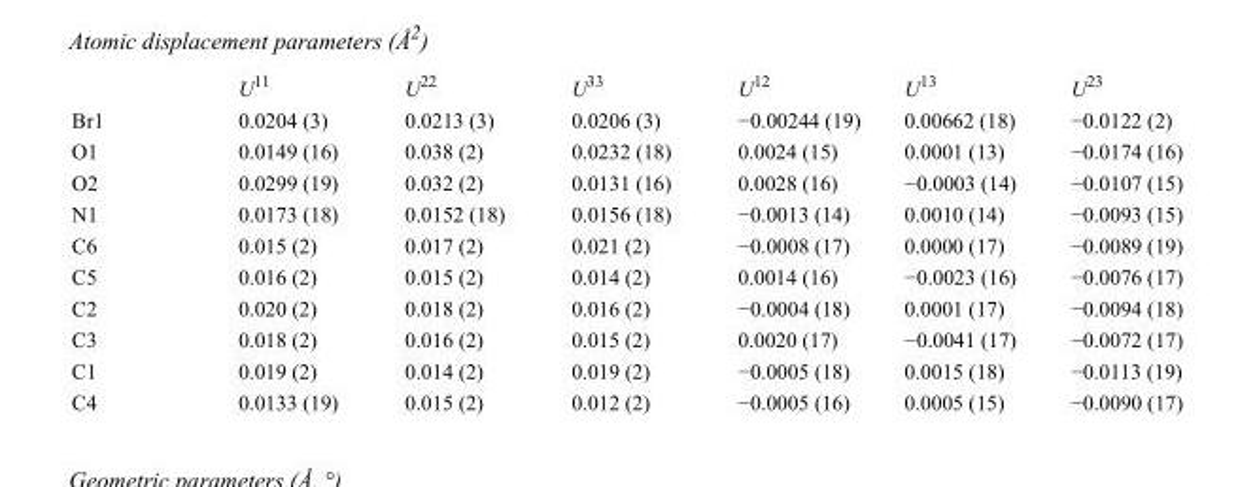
<table><thead><tr><td></td><td>U<sup>11</sup></td><td>U<sup>22</sup></td><td>U<sup>33</sup></td><td>U<sup>12</sup></td><td>U<sup>13</sup></td><td>U<sup>23</sup></td></tr></thead><tbody><tr><td>Br1</td><td>0.0204 (3)</td><td>0.0213 (3)</td><td>0.0206 (3)</td><td>−0.00244 (19)</td><td>0.00662 (18)</td><td>−0.0122 (2)</td></tr><tr><td>O1</td><td>0.0149 (16)</td><td>0.038 (2)</td><td>0.0232 (18)</td><td>0.0024 (15)</td><td>0.0001 (13)</td><td>−0.0174 (16)</td></tr><tr><td>O2</td><td>0.0299 (19)</td><td>0.032 (2)</td><td>0.0131 (16)</td><td>0.0028 (16)</td><td>−0.0003 (14)</td><td>−0.0107 (15)</td></tr><tr><td>N1</td><td>0.0173 (18)</td><td>0.0152 (18)</td><td>0.0156 (18)</td><td>−0.0013 (14)</td><td>0.0010 (14)</td><td>−0.0093 (15)</td></tr><tr><td>C6</td><td>0.015 (2)</td><td>0.017 (2)</td><td>0.021 (2)</td><td>−0.0008 (17)</td><td>0.0000 (17)</td><td>−0.0089 (19)</td></tr><tr><td>C5</td><td>0.016 (2)</td><td>0.015 (2)</td><td>0.014 (2)</td><td>0.0014 (16)</td><td>−0.0023 (16)</td><td>−0.0076 (17)</td></tr><tr><td>C2</td><td>0.020 (2)</td><td>0.018 (2)</td><td>0.016 (2)</td><td>−0.0004 (18)</td><td>0.0001 (17)</td><td>−0.0094 (18)</td></tr><tr><td>C3</td><td>0.018 (2)</td><td>0.016 (2)</td><td>0.015 (2)</td><td>0.0020 (17)</td><td>−0.0041 (17)</td><td>−0.0072 (17)</td></tr><tr><td>C1</td><td>0.019 (2)</td><td>0.014 (2)</td><td>0.019 (2)</td><td>−0.0005 (18)</td><td>0.0015 (18)</td><td>−0.0113 (19)</td></tr><tr><td>C4</td><td>0.0133 (19)</td><td>0.015 (2)</td><td>0.012 (2)</td><td>−0.0005 (16)</td><td>0.0005 (15)</td><td>−0.0090 (17)</td></tr></tbody></table>